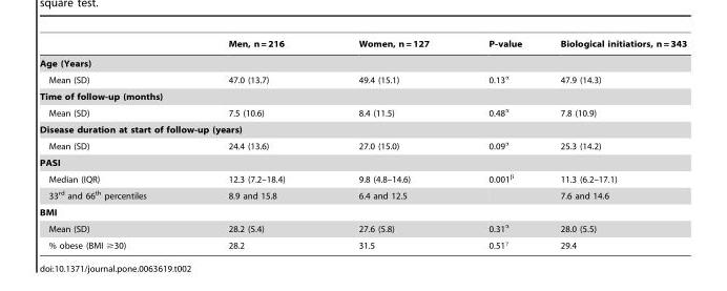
<table><thead><tr><td></td><td>Men, n = 216</td><td>Women, n = 127</td><td>P-value</td><td>Biological initiatiors, n = 343</td></tr></thead><tbody><tr><td colspan="5">Age (Years)</td></tr><tr><td>Mean (SD)</td><td>47.0 (13.7)</td><td>49.4 (15.1)</td><td>0.13<sup>α</sup></td><td>47.9 (14.3)</td></tr><tr><td colspan="5">Time of follow-up (months)</td></tr><tr><td>Mean (SD)</td><td>7.5 (10.6)</td><td>8.4 (11.5)</td><td>0.48<sup>α</sup></td><td>7.8 (10.9)</td></tr><tr><td colspan="5">Disease duration at start of follow-up (years)</td></tr><tr><td>Mean (SD)</td><td>24.4 (13.6)</td><td>27.0 (15.0)</td><td>0.09<sup>α</sup></td><td>25.3 (14.2)</td></tr><tr><td colspan="5">PASI</td></tr><tr><td>Median (IQR)</td><td>12.3 (7.2–18.4)</td><td>9.8 (4.8–14.6)</td><td>0.001<sup>β</sup></td><td>11.3 (6.2–17.1)</td></tr><tr><td>33<sup>rd</sup> and 66<sup>th</sup> percentiles</td><td>8.9 and 15.8</td><td>6.4 and 12.5</td><td></td><td>7.6 and 14.6</td></tr><tr><td colspan="5">BMI</td></tr><tr><td>Mean (SD)</td><td>28.2 (5.4)</td><td>27.6 (5.8)</td><td>0.31<sup>α</sup></td><td>28.0 (5.5)</td></tr><tr><td>% obese (BMI ≥30)</td><td>28.2</td><td>31.5</td><td>0.51<sup>γ</sup></td><td>29.4</td></tr></tbody></table>